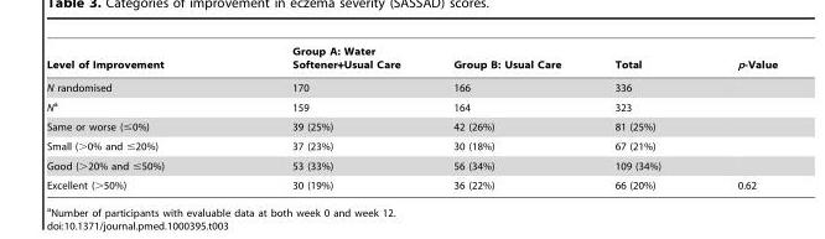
<table><thead><tr><td>Level of Improvement</td><td>Group A: Water Softener+Usual Care</td><td>Group B: Usual Care</td><td>Total</td><td>p-Value</td></tr></thead><tbody><tr><td>N randomised</td><td>170</td><td>166</td><td>336</td><td></td></tr><tr><td>Na</td><td>159</td><td>164</td><td>323</td><td></td></tr><tr><td>Same or worse (≤0%)</td><td>39 (25%)</td><td>42 (26%)</td><td>81 (25%)</td><td></td></tr><tr><td>Small (&gt;0% and ≤20%)</td><td>37 (23%)</td><td>30 (18%)</td><td>67 (21%)</td><td></td></tr><tr><td>Good (&gt;20% and ≤50%)</td><td>53 (33%)</td><td>56 (34%)</td><td>109 (34%)</td><td></td></tr><tr><td>Excellent (&gt;50%)</td><td>30 (19%)</td><td>36 (22%)</td><td>66 (20%)</td><td>0.62</td></tr></tbody></table>